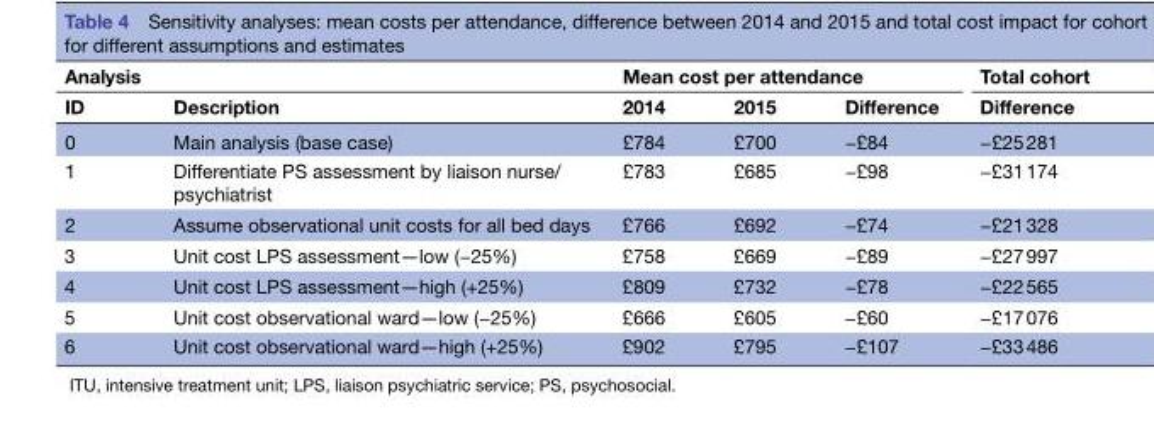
<table><thead><tr><td rowspan="2">Analysis ID</td><td rowspan="2">Description</td><td colspan="3">Mean cost per attendance</td><td rowspan="2">Total cohort Difference</td></tr><tr><td>2014</td><td>2015</td><td>Difference</td></tr></thead><tbody><tr><td>0</td><td>Main analysis (base case)</td><td>£784</td><td>£700</td><td>−£84</td><td>−£25 281</td></tr><tr><td>1</td><td>Differentiate PS assessment by liaison nurse/ psychiatrist</td><td>£783</td><td>£685</td><td>−£98</td><td>−£31 174</td></tr><tr><td>2</td><td>Assume observational unit costs for all bed days</td><td>£766</td><td>£692</td><td>−£74</td><td>−£21 328</td></tr><tr><td>3</td><td>Unit cost LPS assessment—low (−25%)</td><td>£758</td><td>£669</td><td>−£89</td><td>−£27 997</td></tr><tr><td>4</td><td>Unit cost LPS assessment—high (+25%)</td><td>£809</td><td>£732</td><td>−£78</td><td>−£22 565</td></tr><tr><td>5</td><td>Unit cost observational ward—low (−25%)</td><td>£666</td><td>£605</td><td>−£60</td><td>−£17 076</td></tr><tr><td>6</td><td>Unit cost observational ward—high (+25%)</td><td>£902</td><td>£795</td><td>−£107</td><td>−£33 486</td></tr></tbody></table>